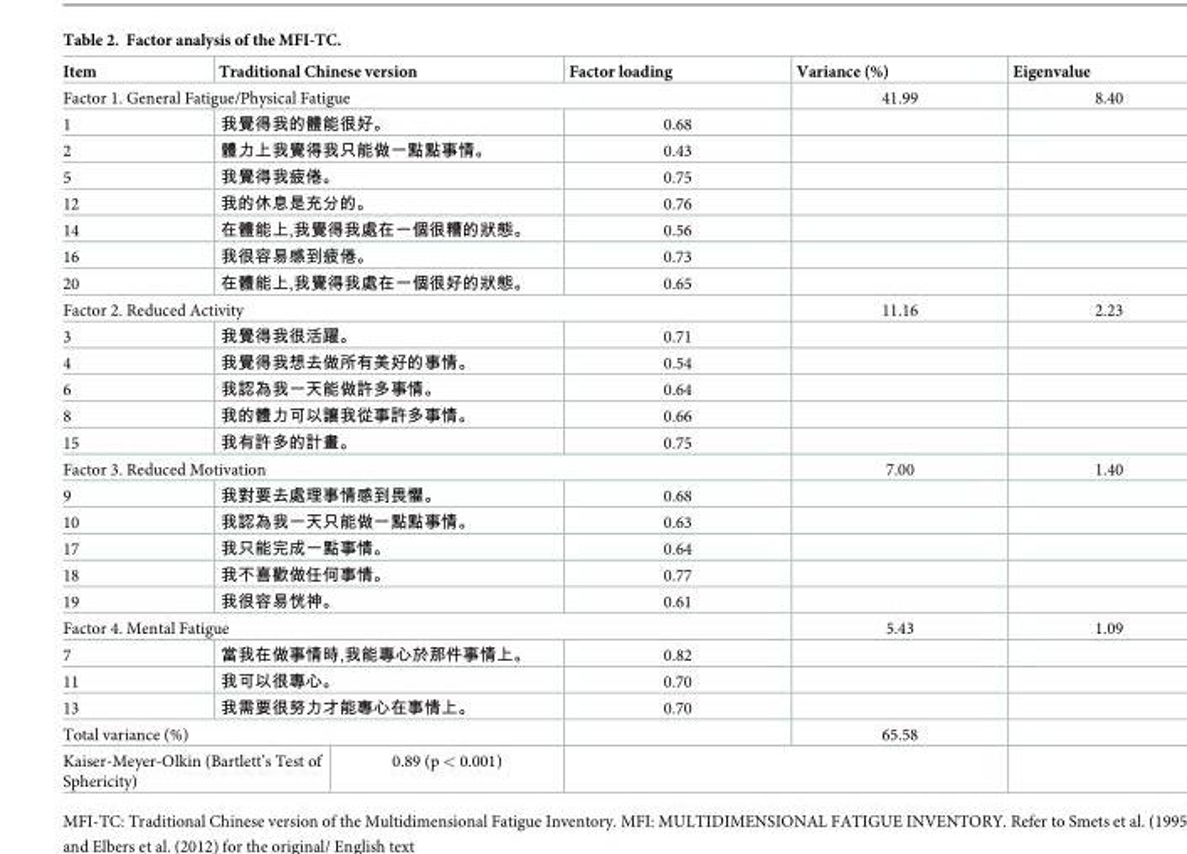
<table><thead><tr><td>Item</td><td colspan="2">Traditional Chinese version</td><td>Factor loading</td><td>Variance (%)</td><td>Eigenvalue</td></tr></thead><tbody><tr><td colspan="4">Factor 1. General Fatigue/Physical Fatigue</td><td>41.99</td><td>8.40</td></tr><tr><td>1</td><td colspan="2">我覺得我的體能很好。</td><td>0.68</td><td></td><td></td></tr><tr><td>2</td><td colspan="2">體力上我覺得我只能做一點點事情。</td><td>0.43</td><td></td><td></td></tr><tr><td>5</td><td colspan="2">我覺得我疲倦。</td><td>0.75</td><td></td><td></td></tr><tr><td>12</td><td colspan="2">我的休息是充分的。</td><td>0.76</td><td></td><td></td></tr><tr><td>14</td><td colspan="2">在體能上,我覺得我處在一個很糟的狀態。</td><td>0.56</td><td></td><td></td></tr><tr><td>16</td><td colspan="2">我很容易感到疲倦。</td><td>0.73</td><td></td><td></td></tr><tr><td>20</td><td colspan="2">在體能上,我覺得我處在一個很好的狀態。</td><td>0.65</td><td></td><td></td></tr><tr><td colspan="4">Factor 2. Reduced Activity</td><td>11.16</td><td>2.23</td></tr><tr><td>3</td><td colspan="2">我覺得我很活躍。</td><td>0.71</td><td></td><td></td></tr><tr><td>4</td><td colspan="2">我覺得我想去做所有美好的事情。</td><td>0.54</td><td></td><td></td></tr><tr><td>6</td><td colspan="2">我認為我一天能做許多事情。</td><td>0.64</td><td></td><td></td></tr><tr><td>8</td><td colspan="2">我的體力可以讓我從事許多事情。</td><td>0.66</td><td></td><td></td></tr><tr><td>15</td><td colspan="2">我有許多的計畫。</td><td>0.75</td><td></td><td></td></tr><tr><td colspan="4">Factor 3. Reduced Motivation</td><td>7.00</td><td>1.40</td></tr><tr><td>9</td><td colspan="2">我對要去處理事情感到畏懼。</td><td>0.68</td><td></td><td></td></tr><tr><td>10</td><td colspan="2">我認為我一天只能做一點點事情。</td><td>0.63</td><td></td><td></td></tr><tr><td>17</td><td colspan="2">我只能完成一點事情。</td><td>0.64</td><td></td><td></td></tr><tr><td>18</td><td colspan="2">我不喜歡做任何事情。</td><td>0.77</td><td></td><td></td></tr><tr><td>19</td><td colspan="2">我很容易恍神。</td><td>0.61</td><td></td><td></td></tr><tr><td colspan="4">Factor 4. Mental Fatigue</td><td>5.43</td><td>1.09</td></tr><tr><td>7</td><td colspan="2">當我在做事情時,我能專心於那件事情上。</td><td>0.82</td><td></td><td></td></tr><tr><td>11</td><td colspan="2">我可以很專心。</td><td>0.70</td><td></td><td></td></tr><tr><td>13</td><td colspan="2">我需要很努力才能專心在事情上。</td><td>0.70</td><td></td><td></td></tr><tr><td colspan="3">Total variance (%)</td><td></td><td>65.58</td><td></td></tr><tr><td colspan="2">Kaiser-Meyer-Olkin (Bartlett’s Test of Sphericity)</td><td>0.89 (p &lt; 0.001)</td><td colspan="2"></td><td></td></tr></tbody></table>